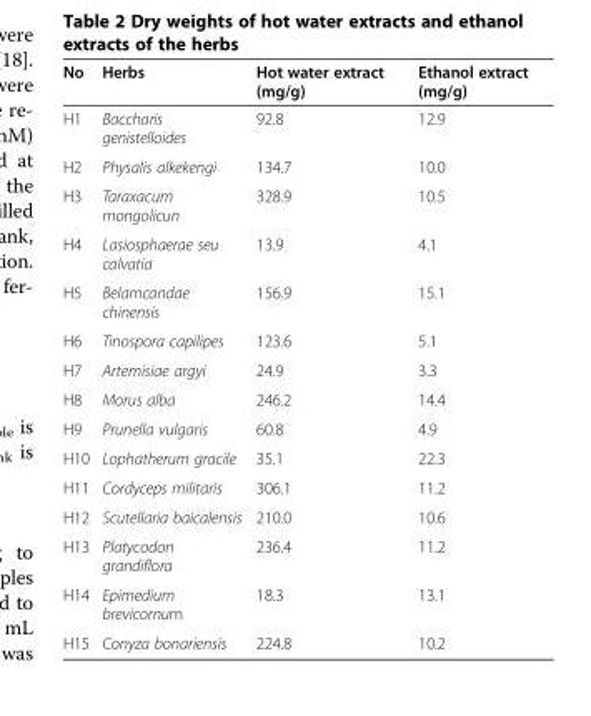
<table><thead><tr><td>No</td><td>Herbs</td><td>Hot water extract (mg/g)</td><td>Ethanol extract (mg/g)</td></tr></thead><tbody><tr><td>H1</td><td>Baccharis genistelloides</td><td>92.8</td><td>12.9</td></tr><tr><td>H2</td><td>Physalis alkekengi</td><td>134.7</td><td>10.0</td></tr><tr><td>H3</td><td>Taraxacum mongolicun</td><td>328.9</td><td>10.5</td></tr><tr><td>H4</td><td>Lasiosphaerae seu calvatia</td><td>13.9</td><td>4.1</td></tr><tr><td>H5</td><td>Belamcandae chinensis</td><td>156.9</td><td>15.1</td></tr><tr><td>H6</td><td>Tinospora capilipes</td><td>123.6</td><td>5.1</td></tr><tr><td>H7</td><td>Artemisiae argyi</td><td>24.9</td><td>3.3</td></tr><tr><td>H8</td><td>Morus alba</td><td>246.2</td><td>14.4</td></tr><tr><td>H9</td><td>Prunella vulgaris</td><td>60.8</td><td>4.9</td></tr><tr><td>H10</td><td>Lophatherum gracile</td><td>35.1</td><td>22.3</td></tr><tr><td>H11</td><td>Cordyceps militaris</td><td>306.1</td><td>11.2</td></tr><tr><td>H12</td><td>Scutellaria baicalensis</td><td>210.0</td><td>10.6</td></tr><tr><td>H13</td><td>Platycodon grandiflora</td><td>236.4</td><td>11.2</td></tr><tr><td>H14</td><td>Epimedium brevicornum</td><td>18.3</td><td>13.1</td></tr><tr><td>H15</td><td>Conyza bonariensis</td><td>224.8</td><td>10.2</td></tr></tbody></table>